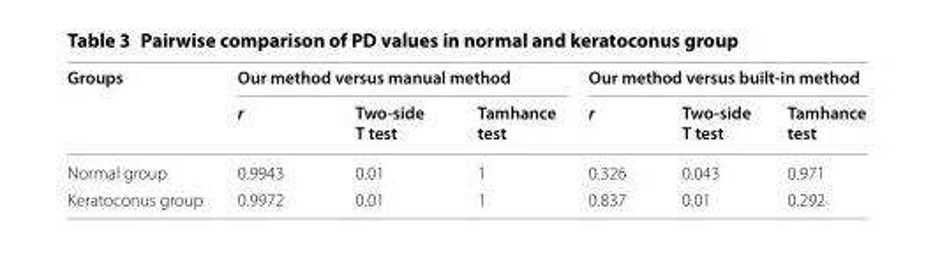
<table><thead><tr><td rowspan="2">Groups</td><td colspan="3">Our method versus manual method</td><td colspan="3">Our method versus built-in method</td></tr><tr><td>r</td><td>Two-side T test</td><td>Tamhance test</td><td>r</td><td>Two-side T test</td><td>Tamhance test</td></tr></thead><tbody><tr><td>Normal group</td><td>0.9943</td><td>0.01</td><td>1</td><td>0.326</td><td>0.043</td><td>0.971</td></tr><tr><td>Keratoconus group</td><td>0.9972</td><td>0.01</td><td>1</td><td>0.837</td><td>0.01</td><td>0.292</td></tr></tbody></table>